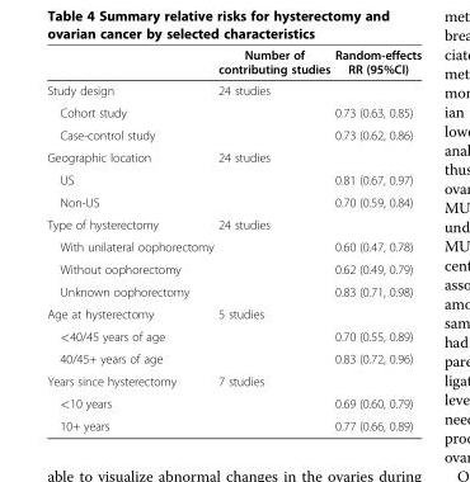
<table><thead><tr><td></td><td>Number of contributing studies</td><td>Random-effects RR (95%CI)</td></tr></thead><tbody><tr><td>Study design</td><td>24 studies</td><td></td></tr><tr><td>Cohort study</td><td></td><td>0.73 (0.63, 0.85)</td></tr><tr><td>Case-control study</td><td></td><td>0.73 (0.62, 0.86)</td></tr><tr><td>Geographic location</td><td>24 studies</td><td></td></tr><tr><td>US</td><td></td><td>0.81 (0.67, 0.97)</td></tr><tr><td>Non-US</td><td></td><td>0.70 (0.59, 0.84)</td></tr><tr><td>Type of hysterectomy</td><td>24 studies</td><td></td></tr><tr><td>With unilateral oophorectomy</td><td></td><td>0.60 (0.47, 0.78)</td></tr><tr><td>Without oophorectomy</td><td></td><td>0.62 (0.49, 0.79)</td></tr><tr><td>Unknown oophorectomy</td><td></td><td>0.83 (0.71, 0.98)</td></tr><tr><td>Age at hysterectomy</td><td>5 studies</td><td></td></tr><tr><td>&lt;40/45 years of age</td><td></td><td>0.70 (0.55, 0.89)</td></tr><tr><td>40/45+ years of age</td><td></td><td>0.83 (0.72, 0.96)</td></tr><tr><td>Years since hysterectomy</td><td>7 studies</td><td></td></tr><tr><td>&lt;10 years</td><td></td><td>0.69 (0.60, 0.79)</td></tr><tr><td>10+ years</td><td></td><td>0.77 (0.66, 0.89)</td></tr></tbody></table>